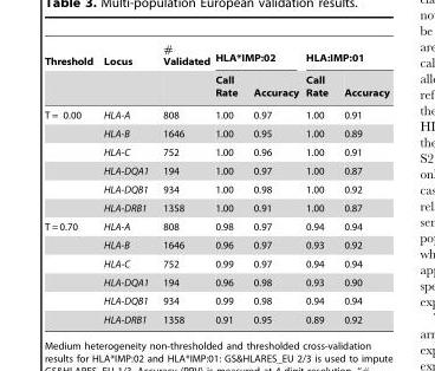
<table><thead><tr><td rowspan="2">Threshold</td><td rowspan="2">Locus</td><td rowspan="2"># Validated</td><td colspan="2">HLA*IMP:02</td><td colspan="2">HLA:IMP:01</td></tr><tr><td>Call Rate</td><td>Accuracy</td><td>Call Rate</td><td>Accuracy</td></tr></thead><tbody><tr><td rowspan="6">T = 0.00</td><td>HLA-A</td><td>808</td><td>1.00</td><td>0.97</td><td>1.00</td><td>0.91</td></tr><tr><td>HLA-B</td><td>1646</td><td>1.00</td><td>0.95</td><td>1.00</td><td>0.89</td></tr><tr><td>HLA-C</td><td>752</td><td>1.00</td><td>0.96</td><td>1.00</td><td>0.91</td></tr><tr><td>HLA-DQA1</td><td>194</td><td>1.00</td><td>0.97</td><td>1.00</td><td>0.87</td></tr><tr><td>HLA-DQB1</td><td>934</td><td>1.00</td><td>0.98</td><td>1.00</td><td>0.92</td></tr><tr><td>HLA-DRB1</td><td>1358</td><td>1.00</td><td>0.91</td><td>1.00</td><td>0.87</td></tr><tr><td rowspan="6">T = 0.70</td><td>HLA-A</td><td>808</td><td>0.98</td><td>0.97</td><td>0.94</td><td>0.94</td></tr><tr><td>HLA-B</td><td>1646</td><td>0.96</td><td>0.97</td><td>0.93</td><td>0.92</td></tr><tr><td>HLA-C</td><td>752</td><td>0.99</td><td>0.97</td><td>0.94</td><td>0.94</td></tr><tr><td>HLA-DQA1</td><td>194</td><td>0.96</td><td>0.98</td><td>0.93</td><td>0.90</td></tr><tr><td>HLA-DQB1</td><td>934</td><td>0.99</td><td>0.98</td><td>0.94</td><td>0.94</td></tr><tr><td>HLA-DRB1</td><td>1358</td><td>0.91</td><td>0.95</td><td>0.89</td><td>0.92</td></tr></tbody></table>